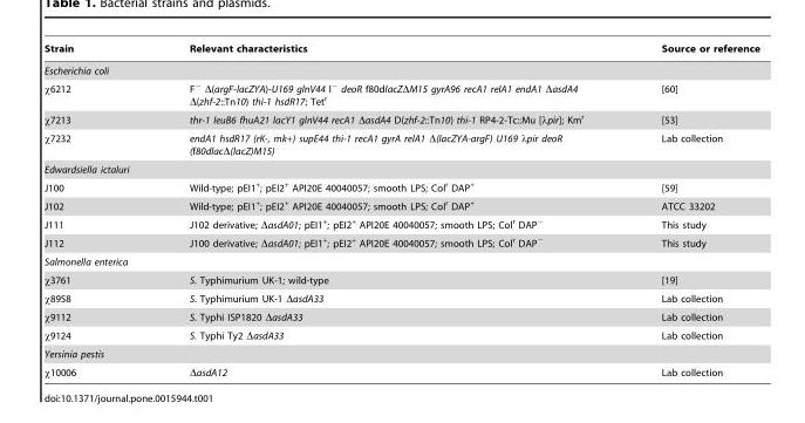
<table><thead><tr><td>Strain</td><td>Relevant characteristics</td><td>Source or reference</td></tr></thead><tbody><tr><td colspan="3">Escherichia coli</td></tr><tr><td>χ6212</td><td>F<sup>−</sup> Δ(argF-lacZYA)-U169 glnV44 l<sup>−</sup> deoR f80dlacZΔM15 gyrA96 recA1 relA1 endA1 ΔasdA4 Δ(zhf-2::Tn10) thi-1 hsdR17; Tet<sup>r</sup></td><td>[60]</td></tr><tr><td>χ7213</td><td>thr-1 leuB6 fhuA21 lacY1 glnV44 recA1 ΔasdA4 D(zhf-2::Tn10) thi-1 RP4-2-Tc::Mu [λpir]; Km<sup>r</sup></td><td>[53]</td></tr><tr><td>χ7232</td><td>endA1 hsdR17 (rK-, mk+) supE44 thi-1 recA1 gyrA relA1 Δ(lacZYA-argF) U169 λpir deoR (f80dlacΔ(lacZ)M15)</td><td>Lab collection</td></tr><tr><td colspan="3">Edwardsiella ictaluri</td></tr><tr><td>J100</td><td>Wild-type; pEI1<sup>+</sup>; pEI2<sup>+</sup> API20E 40040057; smooth LPS; Col<sup>r</sup> DAP<sup>+</sup></td><td>[59]</td></tr><tr><td>J102</td><td>Wild-type; pEI1<sup>+</sup>; pEI2<sup>+</sup> API20E 40040057; smooth LPS; Col<sup>r</sup> DAP<sup>+</sup></td><td>ATCC 33202</td></tr><tr><td>J111</td><td>J102 derivative; ΔasdA01; pEI1<sup>+</sup>; pEI2<sup>+</sup> API20E 40040057; smooth LPS; Col<sup>r</sup> DAP<sup>−</sup></td><td>This study</td></tr><tr><td>J112</td><td>J100 derivative; ΔasdA01; pEI1<sup>+</sup>; pEI2<sup>+</sup> API20E 40040057; smooth LPS; Col<sup>r</sup> DAP<sup>−</sup></td><td>This study</td></tr><tr><td colspan="3">Salmonella enterica</td></tr><tr><td>χ3761</td><td>S. Typhimurium UK-1; wild-type</td><td>[19]</td></tr><tr><td>χ8958</td><td>S. Typhimurium UK-1 ΔasdA33</td><td>Lab collection</td></tr><tr><td>χ9112</td><td>S. Typhi ISP1820 ΔasdA33</td><td>Lab collection</td></tr><tr><td>χ9124</td><td>S. Typhi Ty2 ΔasdA33</td><td>Lab collection</td></tr><tr><td colspan="3">Yersinia pestis</td></tr><tr><td>χ10006</td><td>ΔasdA12</td><td>Lab collection</td></tr></tbody></table>